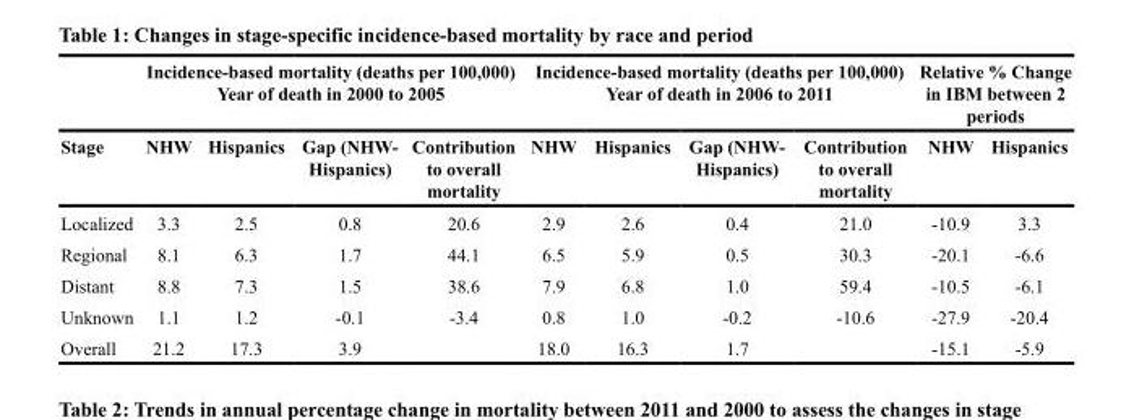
<table><thead><tr><td rowspan="2">Stage</td><td colspan="4">Incidence-based mortality (deaths per 100,000) Year of death in 2000 to 2005</td><td colspan="4">Incidence-based mortality (deaths per 100,000) Year of death in 2006 to 2011</td><td colspan="2">Relative % Change in IBM between 2 periods</td></tr><tr><td>NHW</td><td>Hispanics</td><td>Gap (NHW- Hispanics)</td><td>Contribution to overall mortality</td><td>NHW</td><td>Hispanics</td><td>Gap (NHW- Hispanics)</td><td>Contribution to overall mortality</td><td>NHW</td><td>Hispanics</td></tr></thead><tbody><tr><td>Localized</td><td>3.3</td><td>2.5</td><td>0.8</td><td>20.6</td><td>2.9</td><td>2.6</td><td>0.4</td><td>21.0</td><td>-10.9</td><td>3.3</td></tr><tr><td>Regional</td><td>8.1</td><td>6.3</td><td>1.7</td><td>44.1</td><td>6.5</td><td>5.9</td><td>0.5</td><td>30.3</td><td>-20.1</td><td>-6.6</td></tr><tr><td>Distant</td><td>8.8</td><td>7.3</td><td>1.5</td><td>38.6</td><td>7.9</td><td>6.8</td><td>1.0</td><td>59.4</td><td>-10.5</td><td>-6.1</td></tr><tr><td>Unknown</td><td>1.1</td><td>1.2</td><td>-0.1</td><td>-3.4</td><td>0.8</td><td>1.0</td><td>-0.2</td><td>-10.6</td><td>-27.9</td><td>-20.4</td></tr><tr><td>Overall</td><td>21.2</td><td>17.3</td><td>3.9</td><td></td><td>18.0</td><td>16.3</td><td>1.7</td><td></td><td>-15.1</td><td>-5.9</td></tr></tbody></table>